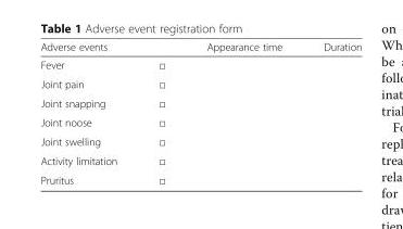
<table><thead><tr><td>Adverse events</td><td></td><td>Appearance time</td><td>Duration</td></tr></thead><tbody><tr><td>Fever</td><td>□</td><td></td><td></td></tr><tr><td>Joint pain</td><td>□</td><td></td><td></td></tr><tr><td>Joint snapping</td><td>□</td><td></td><td></td></tr><tr><td>Joint noose</td><td>□</td><td></td><td></td></tr><tr><td>Joint swelling</td><td>□</td><td></td><td></td></tr><tr><td>Activity limitation</td><td>□</td><td></td><td></td></tr><tr><td>Pruritus</td><td>□</td><td></td><td></td></tr></tbody></table>